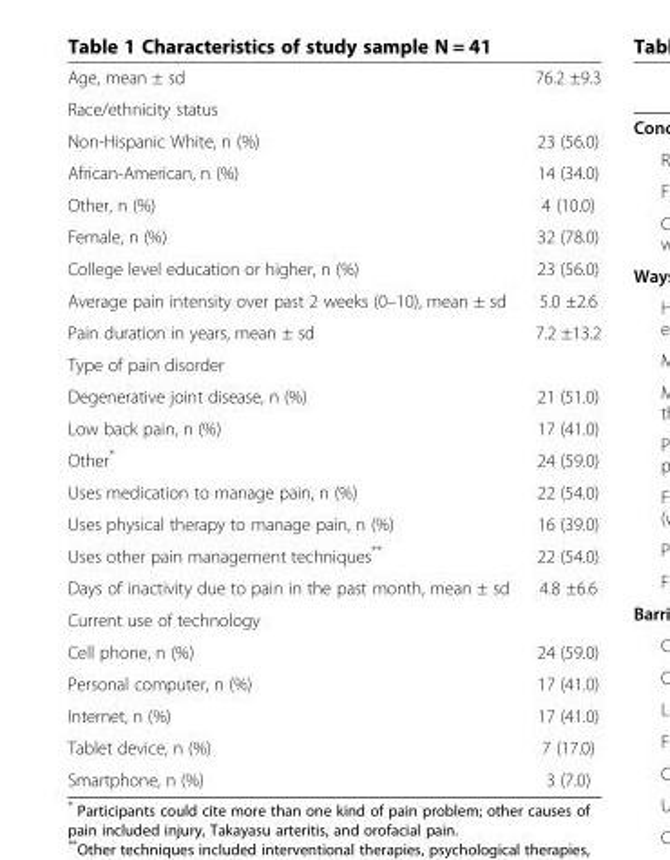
<table><tbody><tr><td>Age, mean ± sd</td><td>76.2 ±9.3</td></tr><tr><td colspan="2">Race/ethnicity status</td></tr><tr><td>Non-Hispanic White, n (%)</td><td>23 (56.0)</td></tr><tr><td>African-American, n (%)</td><td>14 (34.0)</td></tr><tr><td>Other, n (%)</td><td>4 (10.0)</td></tr><tr><td>Female, n (%)</td><td>32 (78.0)</td></tr><tr><td>College level education or higher, n (%)</td><td>23 (56.0)</td></tr><tr><td>Average pain intensity over past 2 weeks (0–10), mean ± sd</td><td>5.0 ±2.6</td></tr><tr><td>Pain duration in years, mean ± sd</td><td>7.2 ±13.2</td></tr><tr><td colspan="2">Type of pain disorder</td></tr><tr><td>Degenerative joint disease, n (%)</td><td>21 (51.0)</td></tr><tr><td>Low back pain, n (%)</td><td>17 (41.0)</td></tr><tr><td>Other*</td><td>24 (59.0)</td></tr><tr><td>Uses medication to manage pain, n (%)</td><td>22 (54.0)</td></tr><tr><td>Uses physical therapy to manage pain, n (%)</td><td>16 (39.0)</td></tr><tr><td>Uses other pain management techniques**</td><td>22 (54.0)</td></tr><tr><td>Days of inactivity due to pain in the past month, mean ± sd</td><td>4.8 ±6.6</td></tr><tr><td colspan="2">Current use of technology</td></tr><tr><td>Cell phone, n (%)</td><td>24 (59.0)</td></tr><tr><td>Personal computer, n (%)</td><td>17 (41.0)</td></tr><tr><td>Internet, n (%)</td><td>17 (41.0)</td></tr><tr><td>Tablet device, n (%)</td><td>7 (17.0)</td></tr><tr><td>Smartphone, n (%)</td><td>3 (7.0)</td></tr></tbody></table>